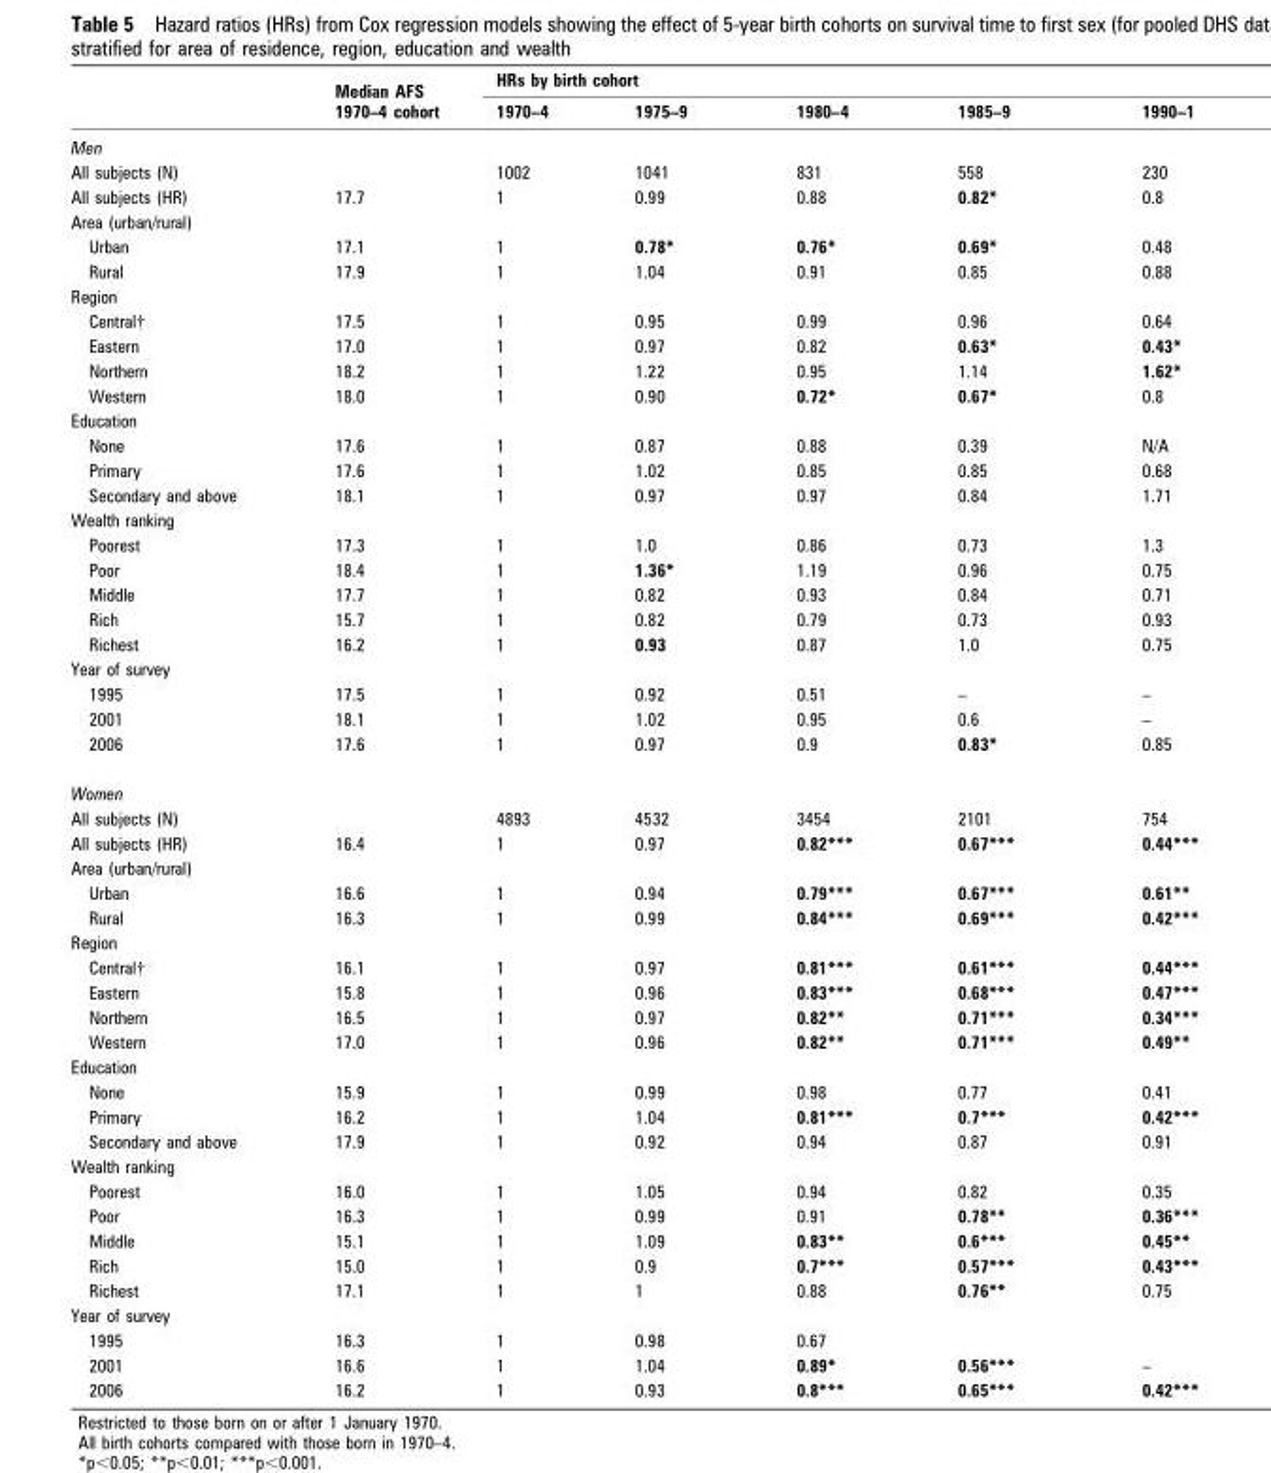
<table><thead><tr><td rowspan="2"></td><td rowspan="2">Median AFS 1970–4 cohort</td><td colspan="5">HRs by birth cohort</td></tr><tr><td>1970–4</td><td>1975–9</td><td>1980–4</td><td>1985–9</td><td>1990–1</td></tr></thead><tbody><tr><td colspan="7">Men</td></tr><tr><td>All subjects (N)</td><td></td><td>1002</td><td>1041</td><td>831</td><td>558</td><td>230</td></tr><tr><td>All subjects (HR)</td><td>17.7</td><td>1</td><td>0.99</td><td>0.88</td><td>0.82*</td><td>0.8</td></tr><tr><td colspan="7">Area (urban/rural)</td></tr><tr><td>Urban</td><td>17.1</td><td>1</td><td>0.78*</td><td>0.76*</td><td>0.69*</td><td>0.48</td></tr><tr><td>Rural</td><td>17.9</td><td>1</td><td>1.04</td><td>0.91</td><td>0.85</td><td>0.88</td></tr><tr><td colspan="7">Region</td></tr><tr><td>Central†</td><td>17.5</td><td>1</td><td>0.95</td><td>0.99</td><td>0.96</td><td>0.64</td></tr><tr><td>Eastern</td><td>17.0</td><td>1</td><td>0.97</td><td>0.82</td><td>0.63*</td><td>0.43*</td></tr><tr><td>Northern</td><td>18.2</td><td>1</td><td>1.22</td><td>0.95</td><td>1.14</td><td>1.62*</td></tr><tr><td>Western</td><td>18.0</td><td>1</td><td>0.90</td><td>0.72*</td><td>0.67*</td><td>0.8</td></tr><tr><td colspan="7">Education</td></tr><tr><td>None</td><td>17.6</td><td>1</td><td>0.87</td><td>0.88</td><td>0.39</td><td>N/A</td></tr><tr><td>Primary</td><td>17.6</td><td>1</td><td>1.02</td><td>0.85</td><td>0.85</td><td>0.68</td></tr><tr><td>Secondary and above</td><td>18.1</td><td>1</td><td>0.97</td><td>0.97</td><td>0.84</td><td>1.71</td></tr><tr><td colspan="7">Wealth ranking</td></tr><tr><td>Poorest</td><td>17.3</td><td>1</td><td>1.0</td><td>0.86</td><td>0.73</td><td>1.3</td></tr><tr><td>Poor</td><td>18.4</td><td>1</td><td>1.36*</td><td>1.19</td><td>0.96</td><td>0.75</td></tr><tr><td>Middle</td><td>17.7</td><td>1</td><td>0.82</td><td>0.93</td><td>0.84</td><td>0.71</td></tr><tr><td>Rich</td><td>15.7</td><td>1</td><td>0.82</td><td>0.79</td><td>0.73</td><td>0.93</td></tr><tr><td>Richest</td><td>16.2</td><td>1</td><td>0.93</td><td>0.87</td><td>1.0</td><td>0.75</td></tr><tr><td colspan="7">Year of survey</td></tr><tr><td>1995</td><td>17.5</td><td>1</td><td>0.92</td><td>0.51</td><td>–</td><td>–</td></tr><tr><td>2001</td><td>18.1</td><td>1</td><td>1.02</td><td>0.95</td><td>0.6</td><td>–</td></tr><tr><td>2006</td><td>17.6</td><td>1</td><td>0.97</td><td>0.9</td><td>0.83*</td><td>0.85</td></tr><tr><td colspan="7">Women</td></tr><tr><td>All subjects (N)</td><td></td><td>4893</td><td>4532</td><td>3454</td><td>2101</td><td>754</td></tr><tr><td>All subjects (HR)</td><td>16.4</td><td>1</td><td>0.97</td><td>0.82***</td><td>0.67***</td><td>0.44***</td></tr><tr><td colspan="7">Area (urban/rural)</td></tr><tr><td>Urban</td><td>16.6</td><td>1</td><td>0.94</td><td>0.79***</td><td>0.67***</td><td>0.61**</td></tr><tr><td>Rural</td><td>16.3</td><td>1</td><td>0.99</td><td>0.84***</td><td>0.69***</td><td>0.42***</td></tr><tr><td colspan="7">Region</td></tr><tr><td>Central†</td><td>16.1</td><td>1</td><td>0.97</td><td>0.81***</td><td>0.61***</td><td>0.44***</td></tr><tr><td>Eastern</td><td>15.8</td><td>1</td><td>0.96</td><td>0.83***</td><td>0.68***</td><td>0.47***</td></tr><tr><td>Northern</td><td>16.5</td><td>1</td><td>0.97</td><td>0.82**</td><td>0.71***</td><td>0.34***</td></tr><tr><td>Western</td><td>17.0</td><td>1</td><td>0.96</td><td>0.82**</td><td>0.71***</td><td>0.49**</td></tr><tr><td colspan="7">Education</td></tr><tr><td>None</td><td>15.9</td><td>1</td><td>0.99</td><td>0.98</td><td>0.77</td><td>0.41</td></tr><tr><td>Primary</td><td>16.2</td><td>1</td><td>1.04</td><td>0.81***</td><td>0.7***</td><td>0.42***</td></tr><tr><td>Secondary and above</td><td>17.9</td><td>1</td><td>0.92</td><td>0.94</td><td>0.87</td><td>0.91</td></tr><tr><td colspan="7">Wealth ranking</td></tr><tr><td>Poorest</td><td>16.0</td><td>1</td><td>1.05</td><td>0.94</td><td>0.82</td><td>0.35</td></tr><tr><td>Poor</td><td>16.3</td><td>1</td><td>0.99</td><td>0.91</td><td>0.78**</td><td>0.36***</td></tr><tr><td>Middle</td><td>15.1</td><td>1</td><td>1.09</td><td>0.83**</td><td>0.6***</td><td>0.45**</td></tr><tr><td>Rich</td><td>15.0</td><td>1</td><td>0.9</td><td>0.7***</td><td>0.57***</td><td>0.43***</td></tr><tr><td>Richest</td><td>17.1</td><td>1</td><td>1</td><td>0.88</td><td>0.76**</td><td>0.75</td></tr><tr><td colspan="7">Year of survey</td></tr><tr><td>1995</td><td>16.3</td><td>1</td><td>0.98</td><td>0.67</td><td></td><td></td></tr><tr><td>2001</td><td>16.6</td><td>1</td><td>1.04</td><td>0.89*</td><td>0.56***</td><td>–</td></tr><tr><td>2006</td><td>16.2</td><td>1</td><td>0.93</td><td>0.8***</td><td>0.65***</td><td>0.42***</td></tr></tbody></table>